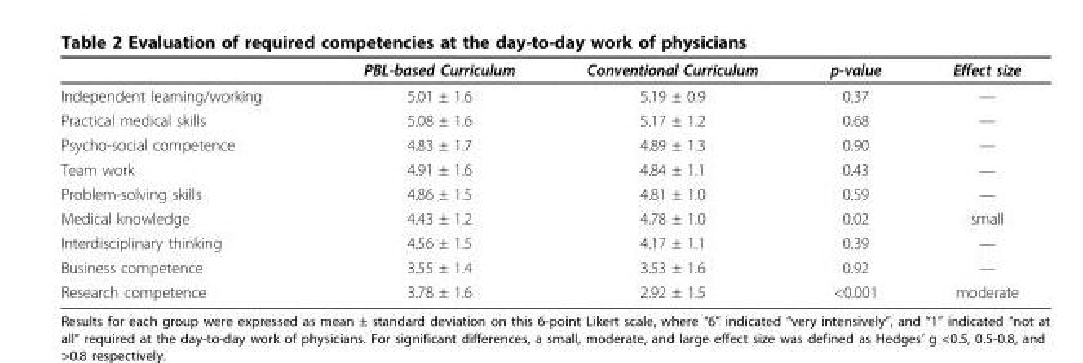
<table><thead><tr><td></td><td>PBL-based Curriculum</td><td>Conventional Curriculum</td><td>p-value</td><td>Effect size</td></tr></thead><tbody><tr><td>Independent learning/working</td><td>5.01 ± 1.6</td><td>5.19 ± 0.9</td><td>0.37</td><td>—</td></tr><tr><td>Practical medical skills</td><td>5.08 ± 1.6</td><td>5.17 ± 1.2</td><td>0.68</td><td>—</td></tr><tr><td>Psycho-social competence</td><td>4.83 ± 1.7</td><td>4.89 ± 1.3</td><td>0.90</td><td>—</td></tr><tr><td>Team work</td><td>4.91 ± 1.6</td><td>4.84 ± 1.1</td><td>0.43</td><td>—</td></tr><tr><td>Problem-solving skills</td><td>4.86 ± 1.5</td><td>4.81 ± 1.0</td><td>0.59</td><td>—</td></tr><tr><td>Medical knowledge</td><td>4.43 ± 1.2</td><td>4.78 ± 1.0</td><td>0.02</td><td>small</td></tr><tr><td>Interdisciplinary thinking</td><td>4.56 ± 1.5</td><td>4.17 ± 1.1</td><td>0.39</td><td>—</td></tr><tr><td>Business competence</td><td>3.55 ± 1.4</td><td>3.53 ± 1.6</td><td>0.92</td><td>—</td></tr><tr><td>Research competence</td><td>3.78 ± 1.6</td><td>2.92 ± 1.5</td><td>&lt;0.001</td><td>moderate</td></tr></tbody></table>